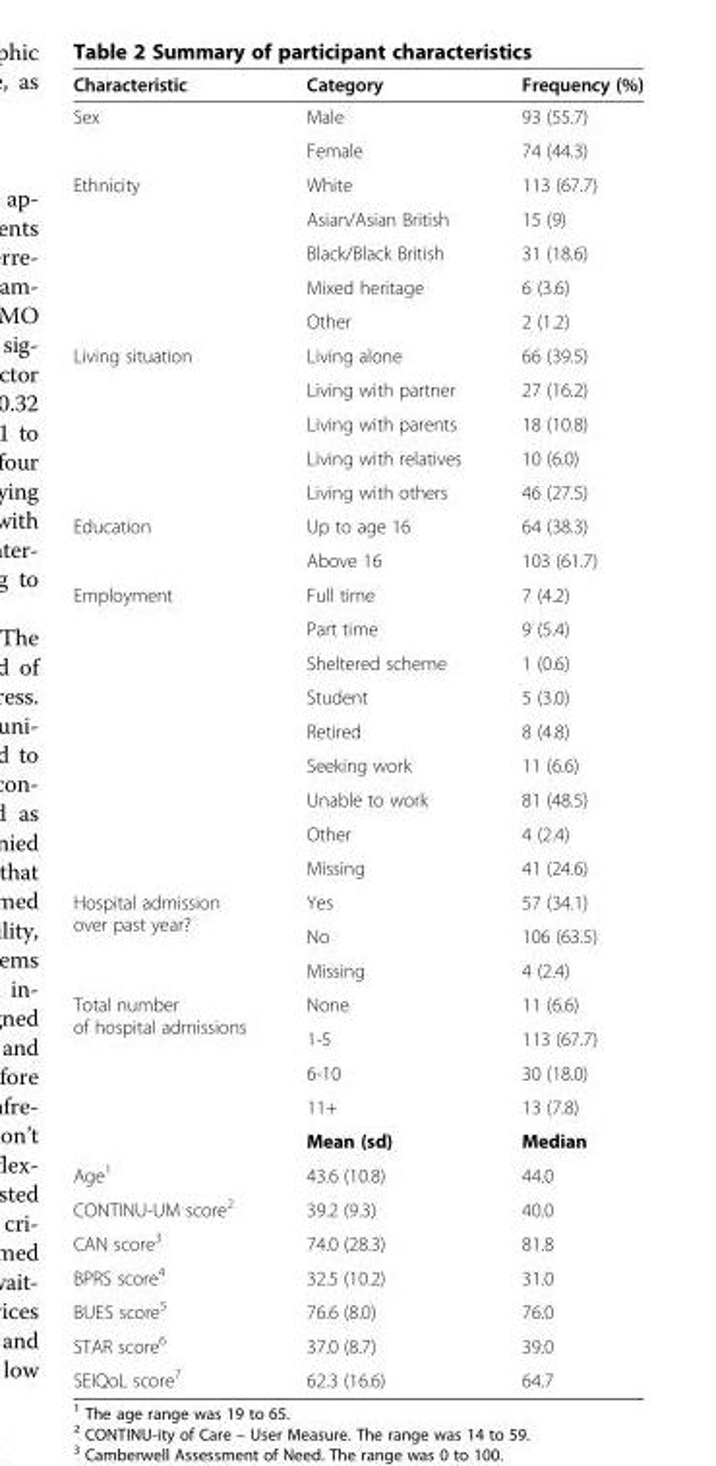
<table><thead><tr><td>Characteristic</td><td>Category</td><td>Frequency (%)</td></tr></thead><tbody><tr><td rowspan="2">Sex</td><td>Male</td><td>93 (55.7)</td></tr><tr><td>Female</td><td>74 (44.3)</td></tr><tr><td rowspan="5">Ethnicity</td><td>White</td><td>113 (67.7)</td></tr><tr><td>Asian/Asian British</td><td>15 (9)</td></tr><tr><td>Black/Black British</td><td>31 (18.6)</td></tr><tr><td>Mixed heritage</td><td>6 (3.6)</td></tr><tr><td>Other</td><td>2 (1.2)</td></tr><tr><td rowspan="5">Living situation</td><td>Living alone</td><td>66 (39.5)</td></tr><tr><td>Living with partner</td><td>27 (16.2)</td></tr><tr><td>Living with parents</td><td>18 (10.8)</td></tr><tr><td>Living with relatives</td><td>10 (6.0)</td></tr><tr><td>Living with others</td><td>46 (27.5)</td></tr><tr><td rowspan="2">Education</td><td>Up to age 16</td><td>64 (38.3)</td></tr><tr><td>Above 16</td><td>103 (61.7)</td></tr><tr><td rowspan="9">Employment</td><td>Full time</td><td>7 (4.2)</td></tr><tr><td>Part time</td><td>9 (5.4)</td></tr><tr><td>Sheltered scheme</td><td>1 (0.6)</td></tr><tr><td>Student</td><td>5 (3.0)</td></tr><tr><td>Retired</td><td>8 (4.8)</td></tr><tr><td>Seeking work</td><td>11 (6.6)</td></tr><tr><td>Unable to work</td><td>81 (48.5)</td></tr><tr><td>Other</td><td>4 (2.4)</td></tr><tr><td>Missing</td><td>41 (24.6)</td></tr><tr><td rowspan="3">Hospital admission over past year?</td><td>Yes</td><td>57 (34.1)</td></tr><tr><td>No</td><td>106 (63.5)</td></tr><tr><td>Missing</td><td>4 (2.4)</td></tr><tr><td rowspan="5">Total number of hospital admissions</td><td>None</td><td>11 (6.6)</td></tr><tr><td>1-5</td><td>113 (67.7)</td></tr><tr><td>6-10</td><td>30 (18.0)</td></tr><tr><td>11+</td><td>13 (7.8)</td></tr><tr><td>Mean (sd)</td><td>Median</td></tr><tr><td>Age<sup>1</sup></td><td>43.6 (10.8)</td><td>44.0</td></tr><tr><td>CONTINU-UM score<sup>2</sup></td><td>39.2 (9.3)</td><td>40.0</td></tr><tr><td>CAN score<sup>3</sup></td><td>74.0 (28.3)</td><td>81.8</td></tr><tr><td>BPRS score<sup>4</sup></td><td>32.5 (10.2)</td><td>31.0</td></tr><tr><td>BUES score<sup>5</sup></td><td>76.6 (8.0)</td><td>76.0</td></tr><tr><td>STAR score<sup>6</sup></td><td>37.0 (8.7)</td><td>39.0</td></tr><tr><td>SEIQoL score<sup>7</sup></td><td>62.3 (16.6)</td><td>64.7</td></tr></tbody></table>